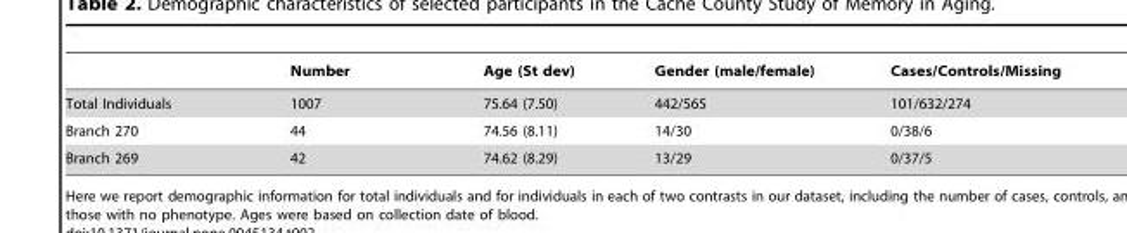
<table><thead><tr><td></td><td>Number</td><td>Age (St dev)</td><td>Gender (male/female)</td><td>Cases/Controls/Missing</td></tr></thead><tbody><tr><td>Total Individuals</td><td>1007</td><td>75.64 (7.50)</td><td>442/565</td><td>101/632/274</td></tr><tr><td>Branch 270</td><td>44</td><td>74.56 (8.11)</td><td>14/30</td><td>0/38/6</td></tr><tr><td>Branch 269</td><td>42</td><td>74.62 (8.29)</td><td>13/29</td><td>0/37/5</td></tr></tbody></table>